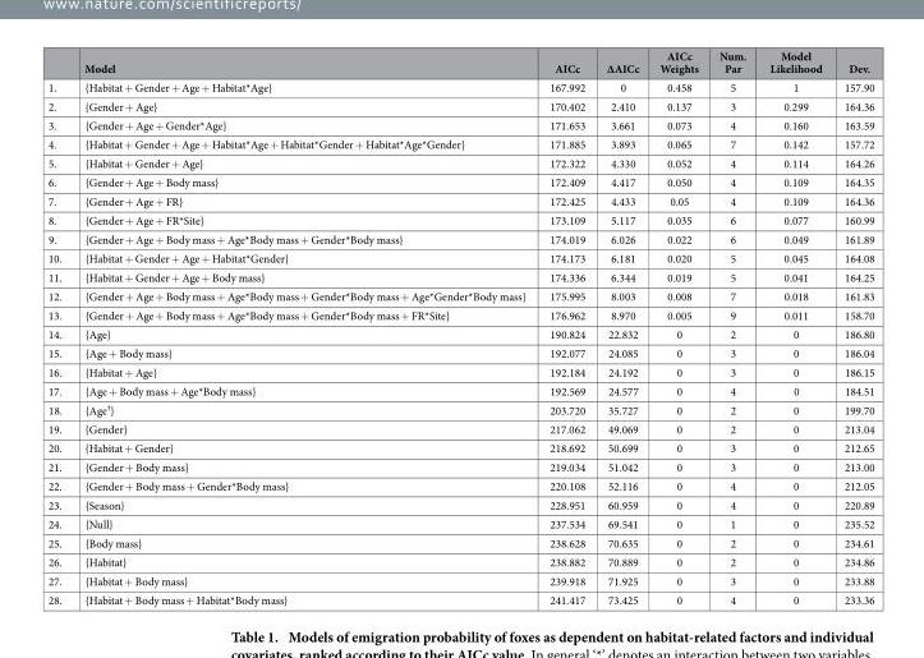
<table><thead><tr><td></td><td>Model</td><td>AICc</td><td>ΔAICc</td><td>AICc Weights</td><td>Num. Par</td><td>Model Likelihood</td><td>Dev.</td></tr></thead><tbody><tr><td>1.</td><td>{Habitat + Gender + Age + Habitat*Age}</td><td>167.992</td><td>0</td><td>0.458</td><td>5</td><td>1</td><td>157.90</td></tr><tr><td>2.</td><td>{Gender + Age}</td><td>170.402</td><td>2.410</td><td>0.137</td><td>3</td><td>0.299</td><td>164.36</td></tr><tr><td>3.</td><td>{Gender + Age + Gender*Age}</td><td>171.653</td><td>3.661</td><td>0.073</td><td>4</td><td>0.160</td><td>163.59</td></tr><tr><td>4.</td><td>{Habitat + Gender + Age + Habitat*Age + Habitat*Gender + Habitat*Age*Gender}</td><td>171.885</td><td>3.893</td><td>0.065</td><td>7</td><td>0.142</td><td>157.72</td></tr><tr><td>5.</td><td>{Habitat + Gender + Age}</td><td>172.322</td><td>4.330</td><td>0.052</td><td>4</td><td>0.114</td><td>164.26</td></tr><tr><td>6.</td><td>{Gender + Age + Body mass}</td><td>172.409</td><td>4.417</td><td>0.050</td><td>4</td><td>0.109</td><td>164.35</td></tr><tr><td>7.</td><td>{Gender + Age + FR}</td><td>172.425</td><td>4.433</td><td>0.05</td><td>4</td><td>0.109</td><td>164.36</td></tr><tr><td>8.</td><td>{Gender + Age + FR*Site}</td><td>173.109</td><td>5.117</td><td>0.035</td><td>6</td><td>0.077</td><td>160.99</td></tr><tr><td>9.</td><td>{Gender + Age + Body mass + Age*Body mass + Gender*Body mass}</td><td>174.019</td><td>6.026</td><td>0.022</td><td>6</td><td>0.049</td><td>161.89</td></tr><tr><td>10.</td><td>{Habitat + Gender + Age + Habitat*Gender}</td><td>174.173</td><td>6.181</td><td>0.020</td><td>5</td><td>0.045</td><td>164.08</td></tr><tr><td>11.</td><td>{Habitat + Gender + Age + Body mass}</td><td>174.336</td><td>6.344</td><td>0.019</td><td>5</td><td>0.041</td><td>164.25</td></tr><tr><td>12.</td><td>{Gender + Age + Body mass + Age*Body mass + Gender*Body mass + Age*Gender*Body mass}</td><td>175.995</td><td>8.003</td><td>0.008</td><td>7</td><td>0.018</td><td>161.83</td></tr><tr><td>13.</td><td>{Gender + Age + Body mass + Age*Body mass + Gender*Body mass + FR*Site}</td><td>176.962</td><td>8.970</td><td>0.005</td><td>9</td><td>0.011</td><td>158.70</td></tr><tr><td>14.</td><td>{Age}</td><td>190.824</td><td>22.832</td><td>0</td><td>2</td><td>0</td><td>186.80</td></tr><tr><td>15.</td><td>{Age + Body mass}</td><td>192.077</td><td>24.085</td><td>0</td><td>3</td><td>0</td><td>186.04</td></tr><tr><td>16.</td><td>{Habitat + Age}</td><td>192.184</td><td>24.192</td><td>0</td><td>3</td><td>0</td><td>186.15</td></tr><tr><td>17.</td><td>{Age + Body mass + Age*Body mass}</td><td>192.569</td><td>24.577</td><td>0</td><td>4</td><td>0</td><td>184.51</td></tr><tr><td>18.</td><td>{Age<sup>†</sup>}</td><td>203.720</td><td>35.727</td><td>0</td><td>2</td><td>0</td><td>199.70</td></tr><tr><td>19.</td><td>{Gender}</td><td>217.062</td><td>49.069</td><td>0</td><td>2</td><td>0</td><td>213.04</td></tr><tr><td>20.</td><td>{Habitat + Gender}</td><td>218.692</td><td>50.699</td><td>0</td><td>3</td><td>0</td><td>212.65</td></tr><tr><td>21.</td><td>{Gender + Body mass}</td><td>219.034</td><td>51.042</td><td>0</td><td>3</td><td>0</td><td>213.00</td></tr><tr><td>22.</td><td>{Gender + Body mass + Gender*Body mass}</td><td>220.108</td><td>52.116</td><td>0</td><td>4</td><td>0</td><td>212.05</td></tr><tr><td>23.</td><td>{Season}</td><td>228.951</td><td>60.959</td><td>0</td><td>4</td><td>0</td><td>220.89</td></tr><tr><td>24.</td><td>{Null}</td><td>237.534</td><td>69.541</td><td>0</td><td>1</td><td>0</td><td>235.52</td></tr><tr><td>25.</td><td>{Body mass}</td><td>238.628</td><td>70.635</td><td>0</td><td>2</td><td>0</td><td>234.61</td></tr><tr><td>26.</td><td>{Habitat}</td><td>238.882</td><td>70.889</td><td>0</td><td>2</td><td>0</td><td>234.86</td></tr><tr><td>27.</td><td>{Habitat + Body mass}</td><td>239.918</td><td>71.925</td><td>0</td><td>3</td><td>0</td><td>233.88</td></tr><tr><td>28.</td><td>{Habitat + Body mass + Habitat*Body mass}</td><td>241.417</td><td>73.425</td><td>0</td><td>4</td><td>0</td><td>233.36</td></tr></tbody></table>